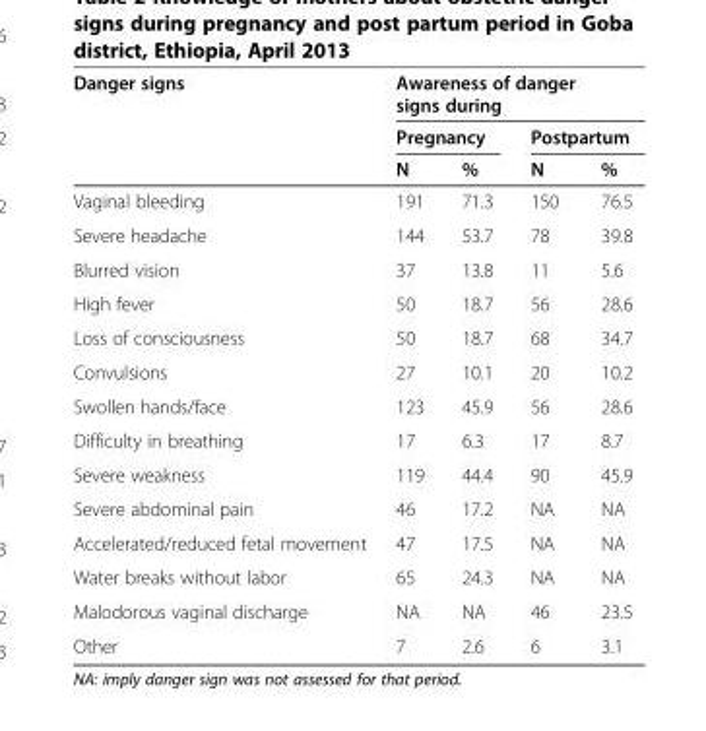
<table><thead><tr><td rowspan="3">Danger signs</td><td colspan="4">Awareness of danger signs during</td></tr><tr><td colspan="2">Pregnancy</td><td colspan="2">Postpartum</td></tr><tr><td>N</td><td>%</td><td>N</td><td>%</td></tr></thead><tbody><tr><td>Vaginal bleeding</td><td>191</td><td>71.3</td><td>150</td><td>76.5</td></tr><tr><td>Severe headache</td><td>144</td><td>53.7</td><td>78</td><td>39.8</td></tr><tr><td>Blurred vision</td><td>37</td><td>13.8</td><td>11</td><td>5.6</td></tr><tr><td>High fever</td><td>50</td><td>18.7</td><td>56</td><td>28.6</td></tr><tr><td>Loss of consciousness</td><td>50</td><td>18.7</td><td>68</td><td>34.7</td></tr><tr><td>Convulsions</td><td>27</td><td>10.1</td><td>20</td><td>10.2</td></tr><tr><td>Swollen hands/face</td><td>123</td><td>45.9</td><td>56</td><td>28.6</td></tr><tr><td>Difficulty in breathing</td><td>17</td><td>6.3</td><td>17</td><td>8.7</td></tr><tr><td>Severe weakness</td><td>119</td><td>44.4</td><td>90</td><td>45.9</td></tr><tr><td>Severe abdominal pain</td><td>46</td><td>17.2</td><td>NA</td><td>NA</td></tr><tr><td>Accelerated/reduced fetal movement</td><td>47</td><td>17.5</td><td>NA</td><td>NA</td></tr><tr><td>Water breaks without labor</td><td>65</td><td>24.3</td><td>NA</td><td>NA</td></tr><tr><td>Malodorous vaginal discharge</td><td>NA</td><td>NA</td><td>46</td><td>23.5</td></tr><tr><td>Other</td><td>7</td><td>2.6</td><td>6</td><td>3.1</td></tr></tbody></table>